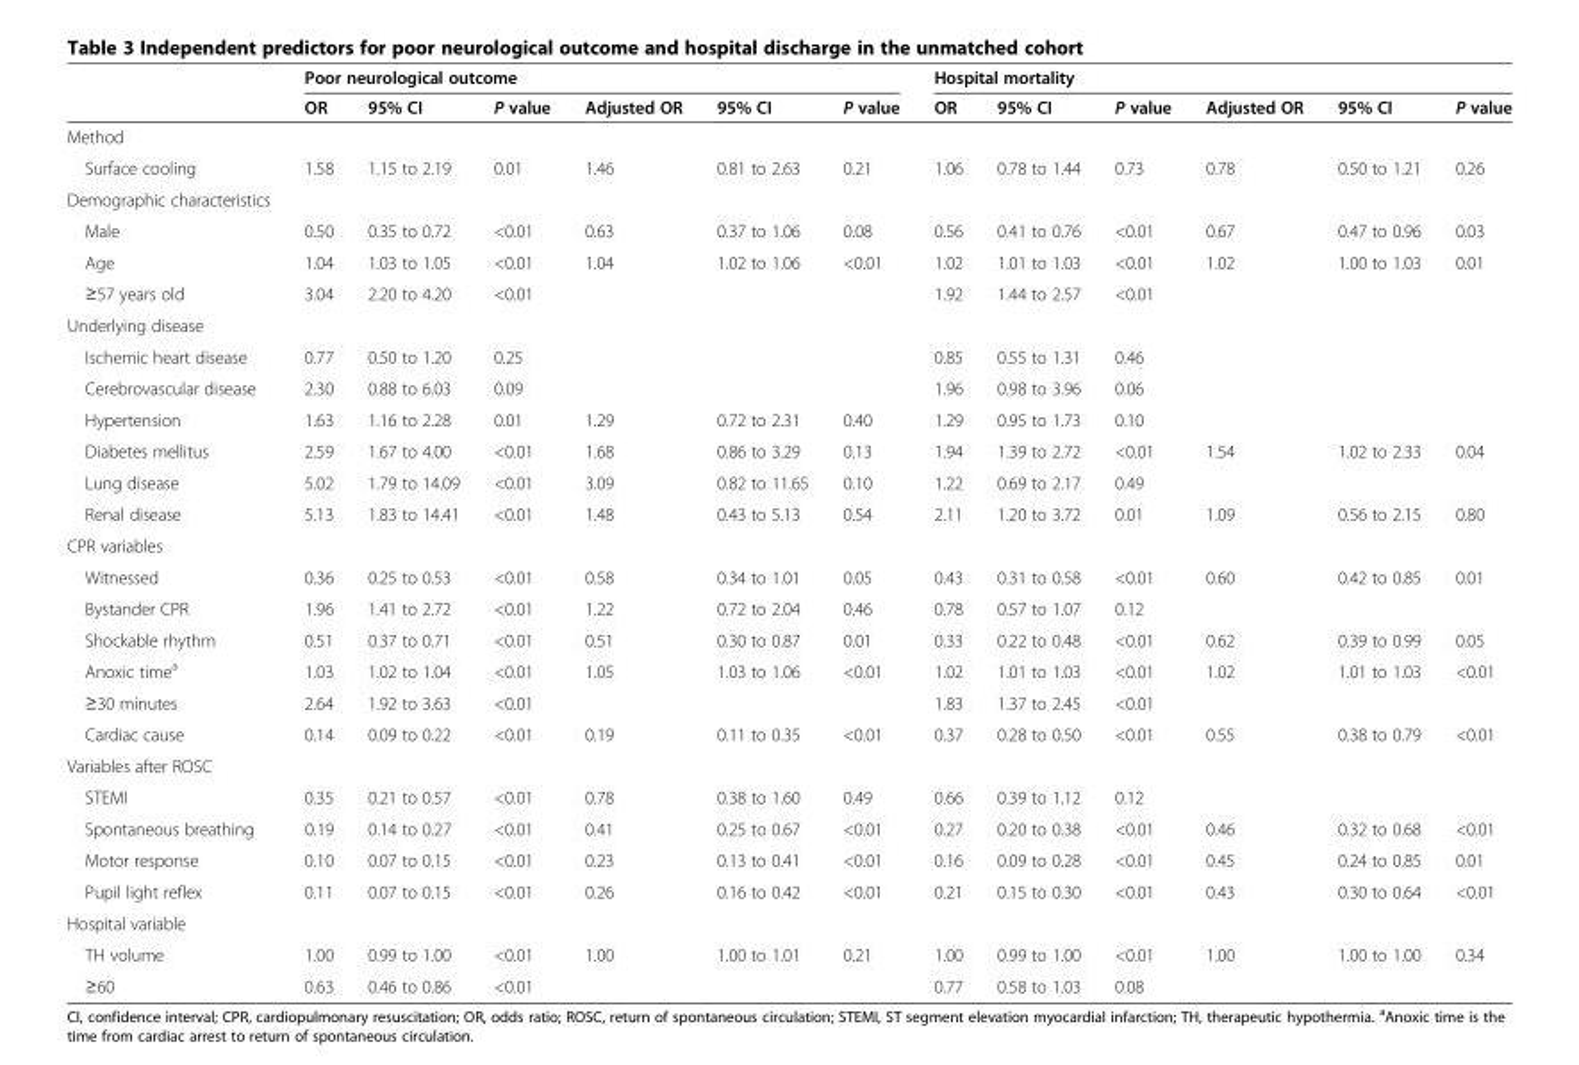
<table><thead><tr><td rowspan="2"></td><td colspan="6">Poor neurological outcome</td><td colspan="6">Hospital mortality</td></tr><tr><td>OR</td><td>95% CI</td><td>P value</td><td>Adjusted OR</td><td>95% CI</td><td>P value</td><td>OR</td><td>95% CI</td><td>P value</td><td>Adjusted OR</td><td>95% CI</td><td>P value</td></tr></thead><tbody><tr><td colspan="13">Method</td></tr><tr><td>Surface cooling</td><td>1.58</td><td>1.15 to 2.19</td><td>0.01</td><td>1.46</td><td>0.81 to 2.63</td><td>0.21</td><td>1.06</td><td>0.78 to 1.44</td><td>0.73</td><td>0.78</td><td>0.50 to 1.21</td><td>0.26</td></tr><tr><td colspan="13">Demographic characteristics</td></tr><tr><td>Male</td><td>0.50</td><td>0.35 to 0.72</td><td>&lt;0.01</td><td>0.63</td><td>0.37 to 1.06</td><td>0.08</td><td>0.56</td><td>0.41 to 0.76</td><td>&lt;0.01</td><td>0.67</td><td>0.47 to 0.96</td><td>0.03</td></tr><tr><td>Age</td><td>1.04</td><td>1.03 to 1.05</td><td>&lt;0.01</td><td>1.04</td><td>1.02 to 1.06</td><td>&lt;0.01</td><td>1.02</td><td>1.01 to 1.03</td><td>&lt;0.01</td><td>1.02</td><td>1.00 to 1.03</td><td>0.01</td></tr><tr><td>≥57 years old</td><td>3.04</td><td>2.20 to 4.20</td><td>&lt;0.01</td><td></td><td></td><td></td><td>1.92</td><td>1.44 to 2.57</td><td>&lt;0.01</td><td></td><td></td><td></td></tr><tr><td colspan="13">Underlying disease</td></tr><tr><td>Ischemic heart disease</td><td>0.77</td><td>0.50 to 1.20</td><td>0.25</td><td></td><td></td><td></td><td>0.85</td><td>0.55 to 1.31</td><td>0.46</td><td></td><td></td><td></td></tr><tr><td>Cerebrovascular disease</td><td>2.30</td><td>0.88 to 6.03</td><td>0.09</td><td></td><td></td><td></td><td>1.96</td><td>0.98 to 3.96</td><td>0.06</td><td></td><td></td><td></td></tr><tr><td>Hypertension</td><td>1.63</td><td>1.16 to 2.28</td><td>0.01</td><td>1.29</td><td>0.72 to 2.31</td><td>0.40</td><td>1.29</td><td>0.95 to 1.73</td><td>0.10</td><td></td><td></td><td></td></tr><tr><td>Diabetes mellitus</td><td>2.59</td><td>1.67 to 4.00</td><td>&lt;0.01</td><td>1.68</td><td>0.86 to 3.29</td><td>0.13</td><td>1.94</td><td>1.39 to 2.72</td><td>&lt;0.01</td><td>1.54</td><td>1.02 to 2.33</td><td>0.04</td></tr><tr><td>Lung disease</td><td>5.02</td><td>1.79 to 14.09</td><td>&lt;0.01</td><td>3.09</td><td>0.82 to 11.65</td><td>0.10</td><td>1.22</td><td>0.69 to 2.17</td><td>0.49</td><td></td><td></td><td></td></tr><tr><td>Renal disease</td><td>5.13</td><td>1.83 to 14.41</td><td>&lt;0.01</td><td>1.48</td><td>0.43 to 5.13</td><td>0.54</td><td>2.11</td><td>1.20 to 3.72</td><td>0.01</td><td>1.09</td><td>0.56 to 2.15</td><td>0.80</td></tr><tr><td colspan="13">CPR variables</td></tr><tr><td>Witnessed</td><td>0.36</td><td>0.25 to 0.53</td><td>&lt;0.01</td><td>0.58</td><td>0.34 to 1.01</td><td>0.05</td><td>0.43</td><td>0.31 to 0.58</td><td>&lt;0.01</td><td>0.60</td><td>0.42 to 0.85</td><td>0.01</td></tr><tr><td>Bystander CPR</td><td>1.96</td><td>1.41 to 2.72</td><td>&lt;0.01</td><td>1.22</td><td>0.72 to 2.04</td><td>0.46</td><td>0.78</td><td>0.57 to 1.07</td><td>0.12</td><td></td><td></td><td></td></tr><tr><td>Shockable rhythm</td><td>0.51</td><td>0.37 to 0.71</td><td>&lt;0.01</td><td>0.51</td><td>0.30 to 0.87</td><td>0.01</td><td>0.33</td><td>0.22 to 0.48</td><td>&lt;0.01</td><td>0.62</td><td>0.39 to 0.99</td><td>0.05</td></tr><tr><td>Anoxic time<sup>a</sup></td><td>1.03</td><td>1.02 to 1.04</td><td>&lt;0.01</td><td>1.05</td><td>1.03 to 1.06</td><td>&lt;0.01</td><td>1.02</td><td>1.01 to 1.03</td><td>&lt;0.01</td><td>1.02</td><td>1.01 to 1.03</td><td>&lt;0.01</td></tr><tr><td>≥30 minutes</td><td>2.64</td><td>1.92 to 3.63</td><td>&lt;0.01</td><td></td><td></td><td></td><td>1.83</td><td>1.37 to 2.45</td><td>&lt;0.01</td><td></td><td></td><td></td></tr><tr><td>Cardiac cause</td><td>0.14</td><td>0.09 to 0.22</td><td>&lt;0.01</td><td>0.19</td><td>0.11 to 0.35</td><td>&lt;0.01</td><td>0.37</td><td>0.28 to 0.50</td><td>&lt;0.01</td><td>0.55</td><td>0.38 to 0.79</td><td>&lt;0.01</td></tr><tr><td colspan="13">Variables after ROSC</td></tr><tr><td>STEMI</td><td>0.35</td><td>0.21 to 0.57</td><td>&lt;0.01</td><td>0.78</td><td>0.38 to 1.60</td><td>0.49</td><td>0.66</td><td>0.39 to 1.12</td><td>0.12</td><td></td><td></td><td></td></tr><tr><td>Spontaneous breathing</td><td>0.19</td><td>0.14 to 0.27</td><td>&lt;0.01</td><td>0.41</td><td>0.25 to 0.67</td><td>&lt;0.01</td><td>0.27</td><td>0.20 to 0.38</td><td>&lt;0.01</td><td>0.46</td><td>0.32 to 0.68</td><td>&lt;0.01</td></tr><tr><td>Motor response</td><td>0.10</td><td>0.07 to 0.15</td><td>&lt;0.01</td><td>0.23</td><td>0.13 to 0.41</td><td>&lt;0.01</td><td>0.16</td><td>0.09 to 0.28</td><td>&lt;0.01</td><td>0.45</td><td>0.24 to 0.85</td><td>0.01</td></tr><tr><td>Pupil light reflex</td><td>0.11</td><td>0.07 to 0.15</td><td>&lt;0.01</td><td>0.26</td><td>0.16 to 0.42</td><td>&lt;0.01</td><td>0.21</td><td>0.15 to 0.30</td><td>&lt;0.01</td><td>0.43</td><td>0.30 to 0.64</td><td>&lt;0.01</td></tr><tr><td colspan="13">Hospital variable</td></tr><tr><td>TH volume</td><td>1.00</td><td>0.99 to 1.00</td><td>&lt;0.01</td><td>1.00</td><td>1.00 to 1.01</td><td>0.21</td><td>1.00</td><td>0.99 to 1.00</td><td>&lt;0.01</td><td>1.00</td><td>1.00 to 1.00</td><td>0.34</td></tr><tr><td>≥60</td><td>0.63</td><td>0.46 to 0.86</td><td>&lt;0.01</td><td></td><td></td><td></td><td>0.77</td><td>0.58 to 1.03</td><td>0.08</td><td></td><td></td><td></td></tr></tbody></table>